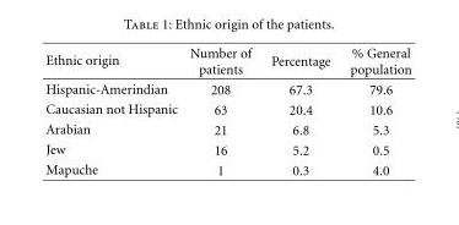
<table><thead><tr><td>Ethnic origin</td><td>Number of patients</td><td>Percentage</td><td>% General population</td></tr></thead><tbody><tr><td>Hispanic-Amerindian</td><td>208</td><td>67.3</td><td>79.6</td></tr><tr><td>Caucasian not Hispanic</td><td>63</td><td>20.4</td><td>10.6</td></tr><tr><td>Arabian</td><td>21</td><td>6.8</td><td>5.3</td></tr><tr><td>Jew</td><td>16</td><td>5.2</td><td>0.5</td></tr><tr><td>Mapuche</td><td>1</td><td>0.3</td><td>4.0</td></tr></tbody></table>